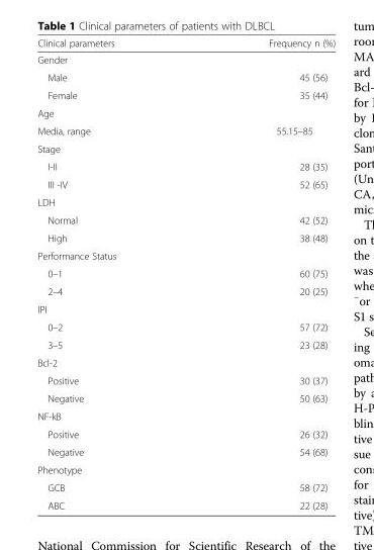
<table><thead><tr><td>Clinical parameters</td><td>Frequency n (%)</td></tr></thead><tbody><tr><td colspan="2">Gender</td></tr><tr><td>Male</td><td>45 (56)</td></tr><tr><td>Female</td><td>35 (44)</td></tr><tr><td colspan="2">Age</td></tr><tr><td>Media, range</td><td>55.15–85</td></tr><tr><td colspan="2">Stage</td></tr><tr><td>I-II</td><td>28 (35)</td></tr><tr><td>III -IV</td><td>52 (65)</td></tr><tr><td colspan="2">LDH</td></tr><tr><td>Normal</td><td>42 (52)</td></tr><tr><td>High</td><td>38 (48)</td></tr><tr><td colspan="2">Performance Status</td></tr><tr><td>0–1</td><td>60 (75)</td></tr><tr><td>2–4</td><td>20 (25)</td></tr><tr><td colspan="2">IPI</td></tr><tr><td>0–2</td><td>57 (72)</td></tr><tr><td>3–5</td><td>23 (28)</td></tr><tr><td colspan="2">Bcl-2</td></tr><tr><td>Positive</td><td>30 (37)</td></tr><tr><td>Negative</td><td>50 (63)</td></tr><tr><td colspan="2">NF-kB</td></tr><tr><td>Positive</td><td>26 (32)</td></tr><tr><td>Negative</td><td>54 (68)</td></tr><tr><td colspan="2">Phenotype</td></tr><tr><td>GCB</td><td>58 (72)</td></tr><tr><td>ABC</td><td>22 (28)</td></tr></tbody></table>